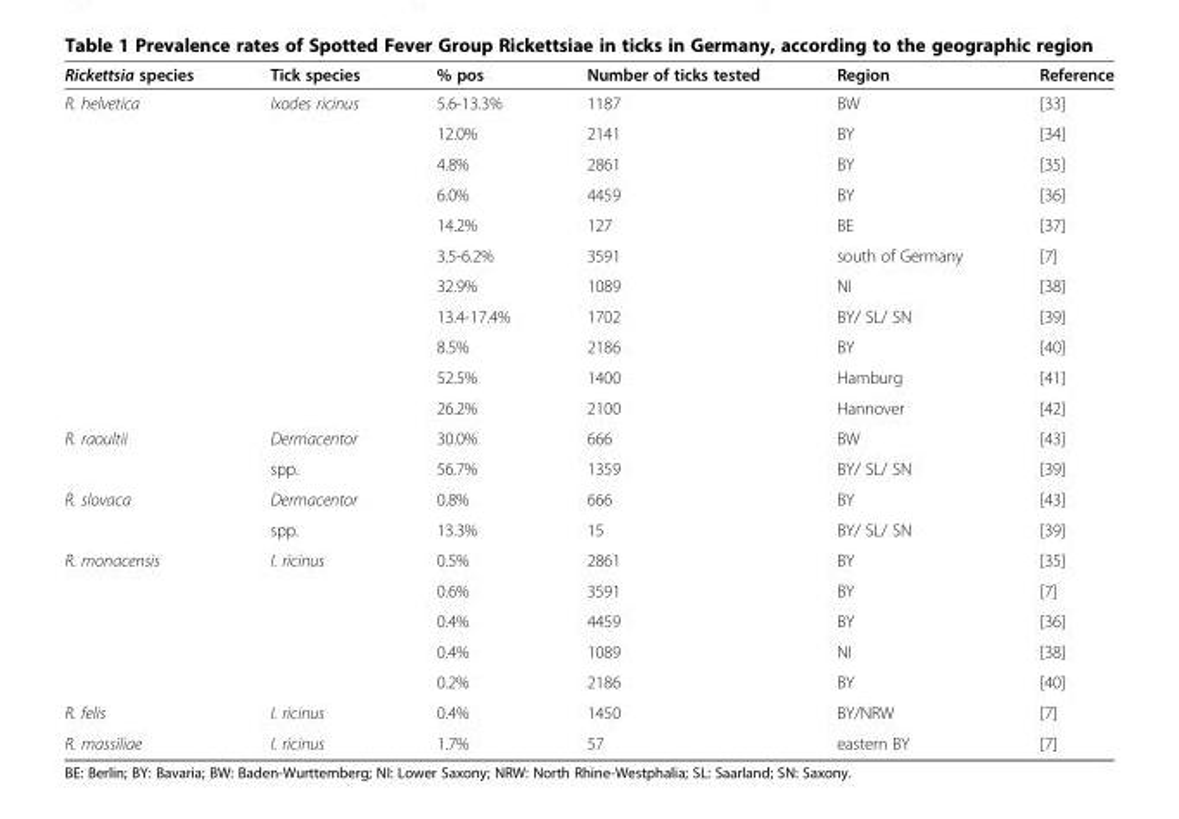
<table><thead><tr><td>Rickettsia species</td><td>Tick species</td><td>% pos</td><td>Number of ticks tested</td><td>Region</td><td>Reference</td></tr></thead><tbody><tr><td rowspan="11">R. helvetica</td><td>Ixodes ricinus</td><td>5.6-13.3%</td><td>1187</td><td>BW</td><td>[33]</td></tr><tr><td></td><td>12.0%</td><td>2141</td><td>BY</td><td>[34]</td></tr><tr><td></td><td>4.8%</td><td>2861</td><td>BY</td><td>[35]</td></tr><tr><td></td><td>6.0%</td><td>4459</td><td>BY</td><td>[36]</td></tr><tr><td></td><td>14.2%</td><td>127</td><td>BE</td><td>[37]</td></tr><tr><td></td><td>3.5-6.2%</td><td>3591</td><td>south of Germany</td><td>[7]</td></tr><tr><td></td><td>32.9%</td><td>1089</td><td>NI</td><td>[38]</td></tr><tr><td></td><td>13.4-17.4%</td><td>1702</td><td>BY/ SL/ SN</td><td>[39]</td></tr><tr><td></td><td>8.5%</td><td>2186</td><td>BY</td><td>[40]</td></tr><tr><td></td><td>52.5%</td><td>1400</td><td>Hamburg</td><td>[41]</td></tr><tr><td></td><td>26.2%</td><td>2100</td><td>Hannover</td><td>[42]</td></tr><tr><td rowspan="2">R. raoultii</td><td>Dermacentor</td><td>30.0%</td><td>666</td><td>BW</td><td>[43]</td></tr><tr><td>spp.</td><td>56.7%</td><td>1359</td><td>BY/ SL/ SN</td><td>[39]</td></tr><tr><td rowspan="2">R. slovaca</td><td>Dermacentor</td><td>0.8%</td><td>666</td><td>BY</td><td>[43]</td></tr><tr><td>spp.</td><td>13.3%</td><td>15</td><td>BY/ SL/ SN</td><td>[39]</td></tr><tr><td rowspan="5">R. monacensis</td><td>I. ricinus</td><td>0.5%</td><td>2861</td><td>BY</td><td>[35]</td></tr><tr><td></td><td>0.6%</td><td>3591</td><td>BY</td><td>[7]</td></tr><tr><td></td><td>0.4%</td><td>4459</td><td>BY</td><td>[36]</td></tr><tr><td></td><td>0.4%</td><td>1089</td><td>NI</td><td>[38]</td></tr><tr><td></td><td>0.2%</td><td>2186</td><td>BY</td><td>[40]</td></tr><tr><td>R. felis</td><td>I. ricinus</td><td>0.4%</td><td>1450</td><td>BY/NRW</td><td>[7]</td></tr><tr><td>R. massiliae</td><td>I. ricinus</td><td>1.7%</td><td>57</td><td>eastern BY</td><td>[7]</td></tr></tbody></table>